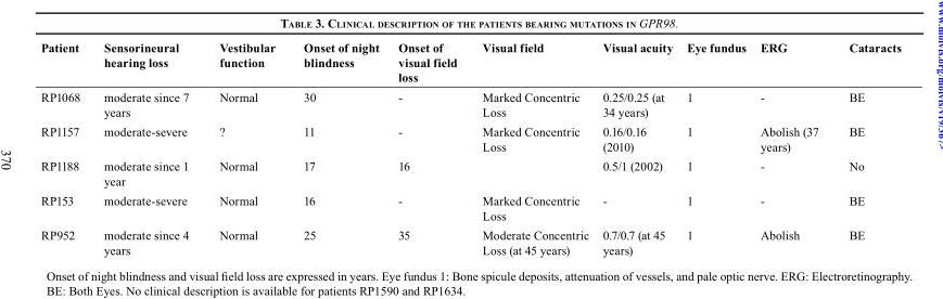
<table><thead><tr><td>Patient</td><td>Sensorineural hearing loss</td><td>Vestibular function</td><td>Onset of night blindness</td><td>Onset of visual field loss</td><td>Visual field</td><td>Visual acuity</td><td>Eye fundus</td><td>ERG</td><td>Cataracts</td></tr></thead><tbody><tr><td>RP1068</td><td>moderate since 7 years</td><td>Normal</td><td>30</td><td>-</td><td>Marked Concentric Loss</td><td>0.25/0.25 (at 34 years)</td><td>1</td><td>-</td><td>BE</td></tr><tr><td>RP1157</td><td>moderate-severe</td><td>?</td><td>11</td><td>-</td><td>Marked Concentric Loss</td><td>0.16/0.16 (2010)</td><td>1</td><td>Abolish (37 years)</td><td>BE</td></tr><tr><td>RP1188</td><td>moderate since 1 year</td><td>Normal</td><td>17</td><td>16</td><td></td><td>0.5/1 (2002)</td><td>1</td><td>-</td><td>No</td></tr><tr><td>RP153</td><td>moderate-severe</td><td>Normal</td><td>16</td><td>-</td><td>Marked Concentric Loss</td><td>-</td><td>1</td><td>-</td><td>BE</td></tr><tr><td>RP952</td><td>moderate since 4 years</td><td>Normal</td><td>25</td><td>35</td><td>Moderate Concentric Loss (at 45 years)</td><td>0.7/0.7 (at 45 years)</td><td>1</td><td>Abolish</td><td>BE</td></tr></tbody></table>